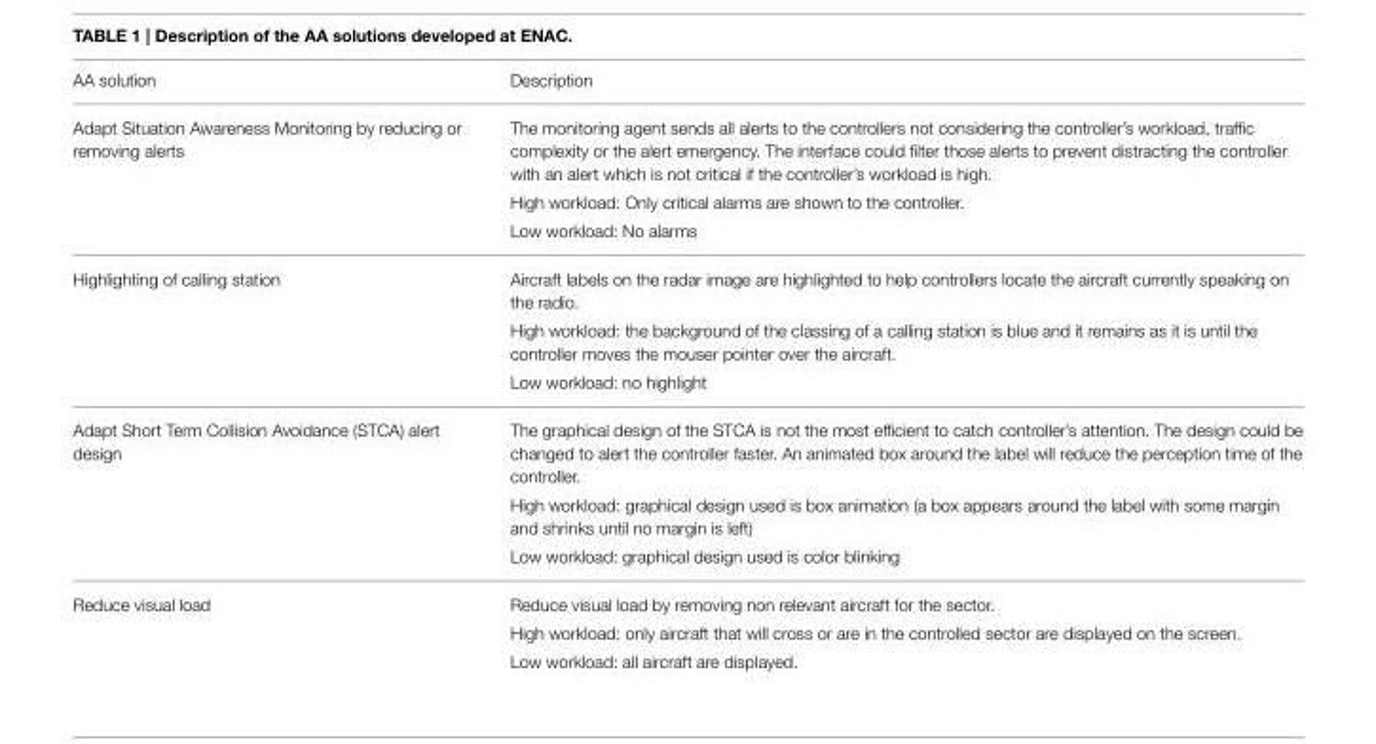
<table><thead><tr><td>AA solution</td><td>Description</td></tr></thead><tbody><tr><td rowspan="3">Adapt Situation Awareness Monitoring by reducing or removing alerts</td><td>The monitoring agent sends all alerts to the controllers not considering the controller’s workload, traffic complexity or the alert emergency. The interface could filter those alerts to prevent distracting the controller with an alert which is not critical if the controller’s workload is high.</td></tr><tr><td>High workload: Only critical alarms are shown to the controller.</td></tr><tr><td>Low workload: No alarms</td></tr><tr><td rowspan="3">Highlighting of calling station</td><td>Aircraft labels on the radar image are highlighted to help controllers locate the aircraft currently speaking on the radio.</td></tr><tr><td>High workload: the background of the classing of a calling station is blue and it remains as it is until the controller moves the mouser pointer over the aircraft.</td></tr><tr><td>Low workload: no highlight</td></tr><tr><td rowspan="3">Adapt Short Term Collision Avoidance (STCA) alert design</td><td>The graphical design of the STCA is not the most efficient to catch controller’s attention. The design could be changed to alert the controller faster. An animated box around the label will reduce the perception time of the controller.</td></tr><tr><td>High workload: graphical design used is box animation (a box appears around the label with some margin and shrinks until no margin is left)</td></tr><tr><td>Low workload: graphical design used is color blinking</td></tr><tr><td rowspan="3">Reduce visual load</td><td>Reduce visual load by removing non relevant aircraft for the sector.</td></tr><tr><td>High workload: only aircraft that will cross or are in the controlled sector are displayed on the screen.</td></tr><tr><td>Low workload: all aircraft are displayed.</td></tr></tbody></table>